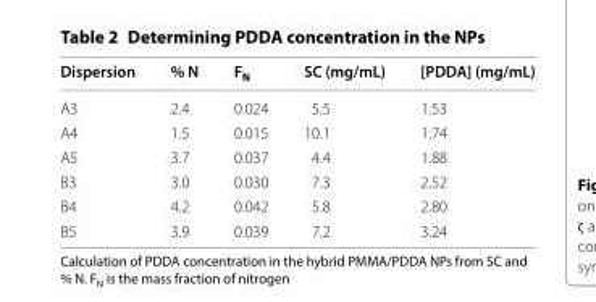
<table><thead><tr><td>Dispersion</td><td>% N</td><td>F<sub>N</sub></td><td>SC (mg/mL)</td><td>[PDDA] (mg/mL)</td></tr></thead><tbody><tr><td>A3</td><td>2.4</td><td>0.024</td><td>5.5</td><td>1.53</td></tr><tr><td>A4</td><td>1.5</td><td>0.015</td><td>10.1</td><td>1.74</td></tr><tr><td>A5</td><td>3.7</td><td>0.037</td><td>4.4</td><td>1.88</td></tr><tr><td>B3</td><td>3.0</td><td>0.030</td><td>7.3</td><td>2.52</td></tr><tr><td>B4</td><td>4.2</td><td>0.042</td><td>5.8</td><td>2.80</td></tr><tr><td>B5</td><td>3.9</td><td>0.039</td><td>7.2</td><td>3.24</td></tr></tbody></table>